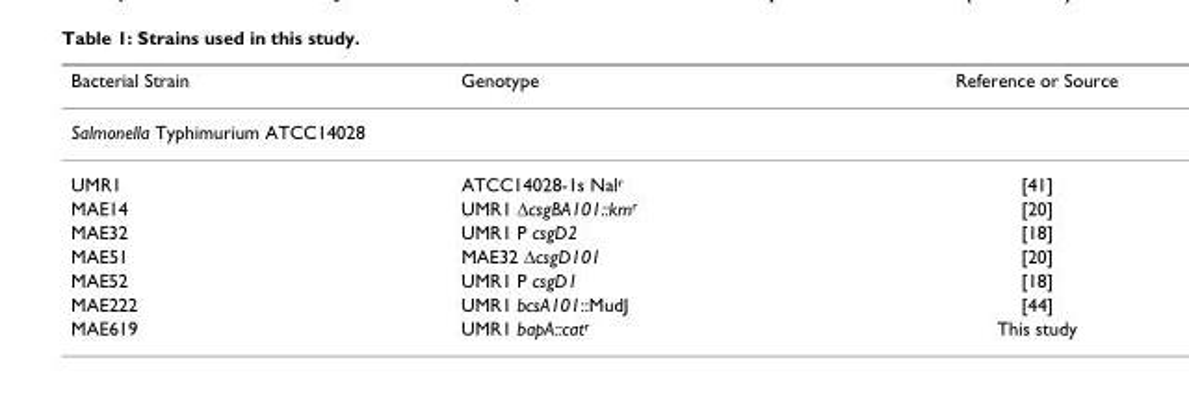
<table><thead><tr><td>Bacterial Strain</td><td>Genotype</td><td>Reference or Source</td></tr></thead><tbody><tr><td colspan="3">Salmonella Typhimurium ATCC14028</td></tr><tr><td>UMR1</td><td>ATCC14028-1s Nal<sup>r</sup></td><td>[41]</td></tr><tr><td>MAE14</td><td>UMR1 ∆csgBA101::kmr</td><td>[20]</td></tr><tr><td>MAE32</td><td>UMR1 P csgD2</td><td>[18]</td></tr><tr><td>MAE51</td><td>MAE32 ∆csgD101</td><td>[20]</td></tr><tr><td>MAE52</td><td>UMR1 P csgD1</td><td>[18]</td></tr><tr><td>MAE222</td><td>UMR1 bcsA101::MudJ</td><td>[44]</td></tr><tr><td>MAE619</td><td>UMR1 bapA::cat<sup>r</sup></td><td>This study</td></tr></tbody></table>